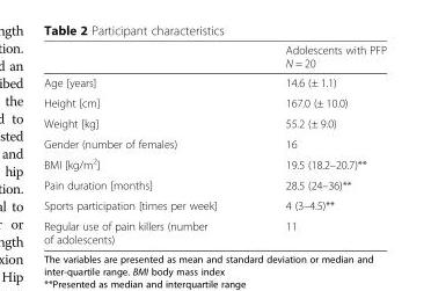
<table><thead><tr><td></td><td>Adolescents with PFP N = 20</td></tr></thead><tbody><tr><td>Age [years]</td><td>14.6 (± 1.1)</td></tr><tr><td>Height [cm]</td><td>167.0 (± 10.0)</td></tr><tr><td>Weight [kg]</td><td>55.2 (± 9.0)</td></tr><tr><td>Gender (number of females)</td><td>16</td></tr><tr><td>BMI [kg/m<sup>2</sup>]</td><td>19.5 (18.2–20.7)**</td></tr><tr><td>Pain duration [months]</td><td>28.5 (24–36)**</td></tr><tr><td>Sports participation [times per week]</td><td>4 (3–4.5)**</td></tr><tr><td>Regular use of pain killers (number of adolescents)</td><td>11</td></tr></tbody></table>